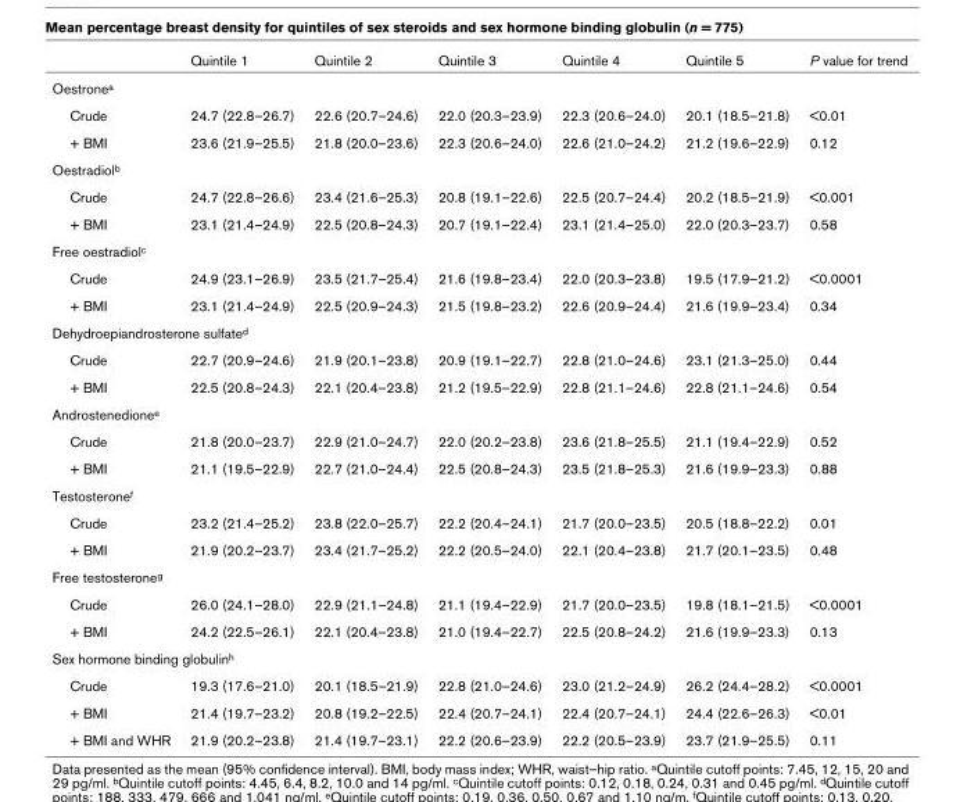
<table><thead><tr><td></td><td>Quintile 1</td><td>Quintile 2</td><td>Quintile 3</td><td>Quintile 4</td><td>Quintile 5</td><td>P value for trend</td></tr></thead><tbody><tr><td colspan="7">Oestrone<sup>a</sup></td></tr><tr><td>Crude</td><td>24.7 (22.8–26.7)</td><td>22.6 (20.7–24.6)</td><td>22.0 (20.3–23.9)</td><td>22.3 (20.6–24.0)</td><td>20.1 (18.5–21.8)</td><td>&lt;0.01</td></tr><tr><td>+ BMI</td><td>23.6 (21.9–25.5)</td><td>21.8 (20.0–23.6)</td><td>22.3 (20.6–24.0)</td><td>22.6 (21.0–24.2)</td><td>21.2 (19.6–22.9)</td><td>0.12</td></tr><tr><td colspan="7">Oestradiol<sup>b</sup></td></tr><tr><td>Crude</td><td>24.7 (22.8–26.6)</td><td>23.4 (21.6–25.3)</td><td>20.8 (19.1–22.6)</td><td>22.5 (20.7–24.4)</td><td>20.2 (18.5–21.9)</td><td>&lt;0.001</td></tr><tr><td>+ BMI</td><td>23.1 (21.4–24.9)</td><td>22.5 (20.8–24.3)</td><td>20.7 (19.1–22.4)</td><td>23.1 (21.4–25.0)</td><td>22.0 (20.3–23.7)</td><td>0.58</td></tr><tr><td colspan="7">Free oestradiol<sup>c</sup></td></tr><tr><td>Crude</td><td>24.9 (23.1–26.9)</td><td>23.5 (21.7–25.4)</td><td>21.6 (19.8–23.4)</td><td>22.0 (20.3–23.8)</td><td>19.5 (17.9–21.2)</td><td>&lt;0.0001</td></tr><tr><td>+ BMI</td><td>23.1 (21.4–24.9)</td><td>22.5 (20.9–24.3)</td><td>21.5 (19.8–23.2)</td><td>22.6 (20.9–24.4)</td><td>21.6 (19.9–23.4)</td><td>0.34</td></tr><tr><td colspan="7">Dehydroepiandrosterone sulfate<sup>d</sup></td></tr><tr><td>Crude</td><td>22.7 (20.9–24.6)</td><td>21.9 (20.1–23.8)</td><td>20.9 (19.1–22.7)</td><td>22.8 (21.0–24.6)</td><td>23.1 (21.3–25.0)</td><td>0.44</td></tr><tr><td>+ BMI</td><td>22.5 (20.8–24.3)</td><td>22.1 (20.4–23.8)</td><td>21.2 (19.5–22.9)</td><td>22.8 (21.1–24.6)</td><td>22.8 (21.1–24.6)</td><td>0.54</td></tr><tr><td colspan="7">Androstenedione<sup>e</sup></td></tr><tr><td>Crude</td><td>21.8 (20.0–23.7)</td><td>22.9 (21.0–24.7)</td><td>22.0 (20.2–23.8)</td><td>23.6 (21.8–25.5)</td><td>21.1 (19.4–22.9)</td><td>0.52</td></tr><tr><td>+ BMI</td><td>21.1 (19.5–22.9)</td><td>22.7 (21.0–24.4)</td><td>22.5 (20.8–24.3)</td><td>23.5 (21.8–25.3)</td><td>21.6 (19.9–23.3)</td><td>0.88</td></tr><tr><td colspan="7">Testosterone<sup>f</sup></td></tr><tr><td>Crude</td><td>23.2 (21.4–25.2)</td><td>23.8 (22.0–25.7)</td><td>22.2 (20.4–24.1)</td><td>21.7 (20.0–23.5)</td><td>20.5 (18.8–22.2)</td><td>0.01</td></tr><tr><td>+ BMI</td><td>21.9 (20.2–23.7)</td><td>23.4 (21.7–25.2)</td><td>22.2 (20.5–24.0)</td><td>22.1 (20.4–23.8)</td><td>21.7 (20.1–23.5)</td><td>0.48</td></tr><tr><td colspan="7">Free testosterone<sup>g</sup></td></tr><tr><td>Crude</td><td>26.0 (24.1–28.0)</td><td>22.9 (21.1–24.8)</td><td>21.1 (19.4–22.9)</td><td>21.7 (20.0–23.5)</td><td>19.8 (18.1–21.5)</td><td>&lt;0.0001</td></tr><tr><td>+ BMI</td><td>24.2 (22.5–26.1)</td><td>22.1 (20.4–23.8)</td><td>21.0 (19.4–22.7)</td><td>22.5 (20.8–24.2)</td><td>21.6 (19.9–23.3)</td><td>0.13</td></tr><tr><td colspan="7">Sex hormone binding globulin<sup>h</sup></td></tr><tr><td>Crude</td><td>19.3 (17.6–21.0)</td><td>20.1 (18.5–21.9)</td><td>22.8 (21.0–24.6)</td><td>23.0 (21.2–24.9)</td><td>26.2 (24.4–28.2)</td><td>&lt;0.0001</td></tr><tr><td>+ BMI</td><td>21.4 (19.7–23.2)</td><td>20.8 (19.2–22.5)</td><td>22.4 (20.7–24.1)</td><td>22.4 (20.7–24.1)</td><td>24.4 (22.6–26.3)</td><td>&lt;0.01</td></tr><tr><td>+ BMI and WHR</td><td>21.9 (20.2–23.8)</td><td>21.4 (19.7–23.1)</td><td>22.2 (20.6–23.9)</td><td>22.2 (20.5–23.9)</td><td>23.7 (21.9–25.5)</td><td>0.11</td></tr></tbody></table>